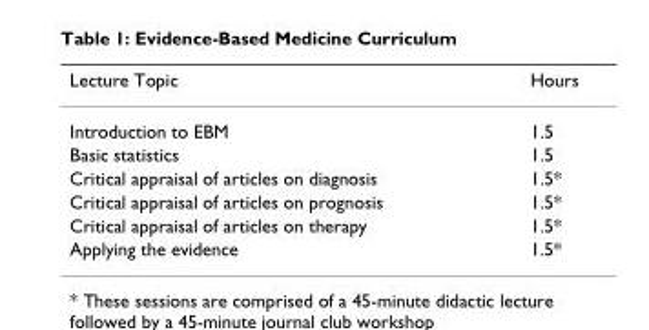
<table><thead><tr><td>Lecture Topic</td><td>Hours</td></tr></thead><tbody><tr><td>Introduction to EBM</td><td>1.5</td></tr><tr><td>Basic statistics</td><td>1.5</td></tr><tr><td>Critical appraisal of articles on diagnosis</td><td>1.5*</td></tr><tr><td>Critical appraisal of articles on prognosis</td><td>1.5*</td></tr><tr><td>Critical appraisal of articles on therapy</td><td>1.5*</td></tr><tr><td>Applying the evidence</td><td>1.5*</td></tr></tbody></table>